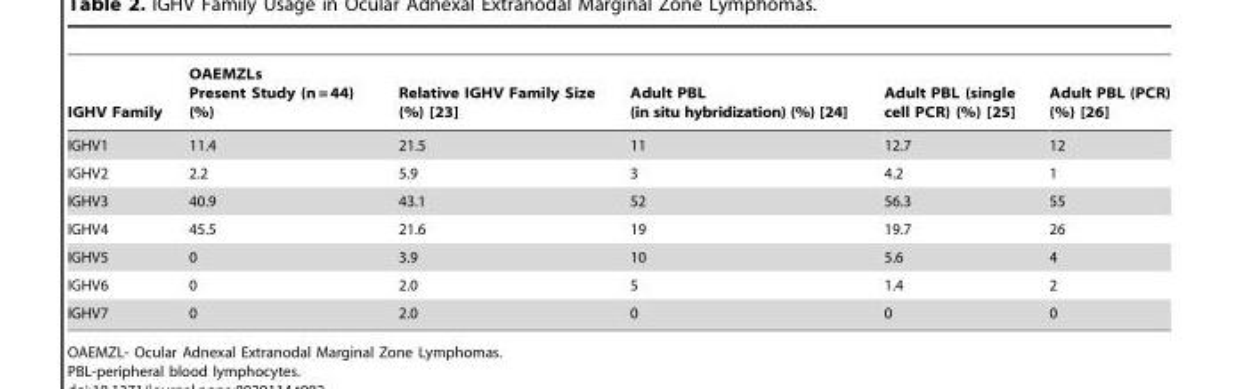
<table><thead><tr><td>IGHV Family</td><td>OAEMZLs Present Study (n = 44) (%)</td><td>Relative IGHV Family Size (%) [23]</td><td>Adult PBL (in situ hybridization) (%) [24]</td><td>Adult PBL (single cell PCR) (%) [25]</td><td>Adult PBL (PCR) (%) [26]</td></tr></thead><tbody><tr><td>IGHV1</td><td>11.4</td><td>21.5</td><td>11</td><td>12.7</td><td>12</td></tr><tr><td>IGHV2</td><td>2.2</td><td>5.9</td><td>3</td><td>4.2</td><td>1</td></tr><tr><td>IGHV3</td><td>40.9</td><td>43.1</td><td>52</td><td>56.3</td><td>55</td></tr><tr><td>IGHV4</td><td>45.5</td><td>21.6</td><td>19</td><td>19.7</td><td>26</td></tr><tr><td>IGHV5</td><td>0</td><td>3.9</td><td>10</td><td>5.6</td><td>4</td></tr><tr><td>IGHV6</td><td>0</td><td>2.0</td><td>5</td><td>1.4</td><td>2</td></tr><tr><td>IGHV7</td><td>0</td><td>2.0</td><td>0</td><td>0</td><td>0</td></tr></tbody></table>